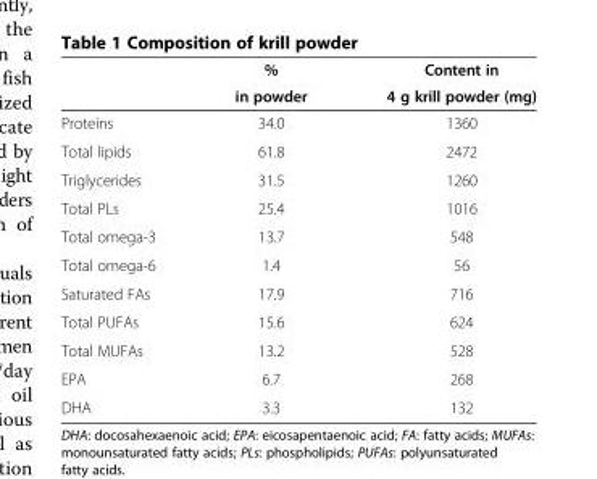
<table><thead><tr><td rowspan="2"></td><td rowspan="2">% in powder</td><td rowspan="2">Content in 4 g krill powder (mg)</td></tr><tr></tr></thead><tbody><tr><td>Proteins</td><td>34.0</td><td>1360</td></tr><tr><td>Total lipids</td><td>61.8</td><td>2472</td></tr><tr><td>Triglycerides</td><td>31.5</td><td>1260</td></tr><tr><td>Total PLs</td><td>25.4</td><td>1016</td></tr><tr><td>Total omega-3</td><td>13.7</td><td>548</td></tr><tr><td>Total omega-6</td><td>1.4</td><td>56</td></tr><tr><td>Saturated FAs</td><td>17.9</td><td>716</td></tr><tr><td>Total PUFAs</td><td>15.6</td><td>624</td></tr><tr><td>Total MUFAs</td><td>13.2</td><td>528</td></tr><tr><td>EPA</td><td>6.7</td><td>268</td></tr><tr><td>DHA</td><td>3.3</td><td>132</td></tr></tbody></table>